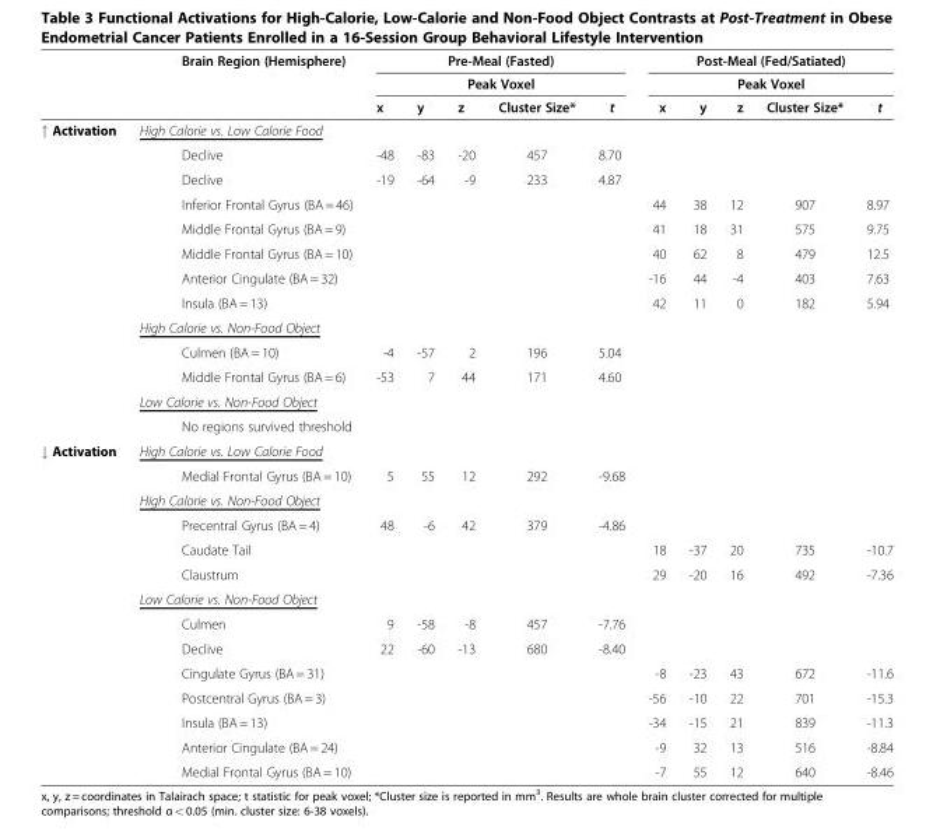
<table><thead><tr><td rowspan="3"></td><td rowspan="3">Brain Region (Hemisphere)</td><td rowspan="2" colspan="5">Pre-Meal (Fasted) Peak Voxel</td><td rowspan="2" colspan="5">Post-Meal (Fed/Satiated) Peak Voxel</td></tr><tr></tr><tr><td>x</td><td>y</td><td>z</td><td>Cluster Size*</td><td>t</td><td>x</td><td>y</td><td>z</td><td>Cluster Size*</td><td>t</td></tr></thead><tbody><tr><td rowspan="13">Activation</td><td colspan="11">High Calorie vs. Low Calorie Food</td></tr><tr><td>Declive</td><td>-48</td><td>-83</td><td>-20</td><td>457</td><td>8.70</td><td></td><td></td><td></td><td></td><td></td></tr><tr><td>Declive</td><td>-19</td><td>-64</td><td>-9</td><td>233</td><td>4.87</td><td></td><td></td><td></td><td></td><td></td></tr><tr><td>Inferior Frontal Gyrus (BA = 46)</td><td></td><td></td><td></td><td></td><td></td><td>44</td><td>38</td><td>12</td><td>907</td><td>8.97</td></tr><tr><td>Middle Frontal Gyrus (BA = 9)</td><td></td><td></td><td></td><td></td><td></td><td>41</td><td>18</td><td>31</td><td>575</td><td>9.75</td></tr><tr><td>Middle Frontal Gyrus (BA = 10)</td><td></td><td></td><td></td><td></td><td></td><td>40</td><td>62</td><td>8</td><td>479</td><td>12.5</td></tr><tr><td>Anterior Cingulate (BA = 32)</td><td></td><td></td><td></td><td></td><td></td><td>-16</td><td>44</td><td>-4</td><td>403</td><td>7.63</td></tr><tr><td>Insula (BA = 13)</td><td></td><td></td><td></td><td></td><td></td><td>42</td><td>11</td><td>0</td><td>182</td><td>5.94</td></tr><tr><td colspan="11">High Calorie vs. Non-Food Object</td></tr><tr><td>Culmen (BA = 10)</td><td>-4</td><td>-57</td><td>2</td><td>196</td><td>5.04</td><td></td><td></td><td></td><td></td><td></td></tr><tr><td>Middle Frontal Gyrus (BA = 6)</td><td>-53</td><td>7</td><td>44</td><td>171</td><td>4.60</td><td></td><td></td><td></td><td></td><td></td></tr><tr><td colspan="11">Low Calorie vs. Non-Food Object</td></tr><tr><td>No regions survived threshold</td><td></td><td></td><td></td><td></td><td></td><td></td><td></td><td></td><td></td><td></td></tr><tr><td rowspan="14">Activation</td><td colspan="11">High Calorie vs. Low Calorie Food</td></tr><tr><td>Medial Frontal Gyrus (BA = 10)</td><td>5</td><td>55</td><td>12</td><td>292</td><td>-9.68</td><td></td><td></td><td></td><td></td><td></td></tr><tr><td colspan="11">High Calorie vs. Non-Food Object</td></tr><tr><td>Precentral Gyrus (BA = 4)</td><td>48</td><td>-6</td><td>42</td><td>379</td><td>-4.86</td><td></td><td></td><td></td><td></td><td></td></tr><tr><td>Caudate Tail</td><td></td><td></td><td></td><td></td><td></td><td>18</td><td>-37</td><td>20</td><td>735</td><td>-10.7</td></tr><tr><td>Claustrum</td><td></td><td></td><td></td><td></td><td></td><td>29</td><td>-20</td><td>16</td><td>492</td><td>-7.36</td></tr><tr><td colspan="11">Low Calorie vs. Non-Food Object</td></tr><tr><td>Culmen</td><td>9</td><td>-58</td><td>-8</td><td>457</td><td>-7.76</td><td></td><td></td><td></td><td></td><td></td></tr><tr><td>Declive</td><td>22</td><td>-60</td><td>-13</td><td>680</td><td>-8.40</td><td></td><td></td><td></td><td></td><td></td></tr><tr><td>Cingulate Gyrus (BA = 31)</td><td></td><td></td><td></td><td></td><td></td><td>-8</td><td>-23</td><td>43</td><td>672</td><td>-11.6</td></tr><tr><td>Postcentral Gyrus (BA = 3)</td><td></td><td></td><td></td><td></td><td></td><td>-56</td><td>-10</td><td>22</td><td>701</td><td>-15.3</td></tr><tr><td>Insula (BA = 13)</td><td></td><td></td><td></td><td></td><td></td><td>-34</td><td>-15</td><td>21</td><td>839</td><td>-11.3</td></tr><tr><td>Anterior Cingulate (BA = 24)</td><td></td><td></td><td></td><td></td><td></td><td>-9</td><td>32</td><td>13</td><td>516</td><td>-8.84</td></tr><tr><td>Medial Frontal Gyrus (BA = 10)</td><td></td><td></td><td></td><td></td><td></td><td>-7</td><td>55</td><td>12</td><td>640</td><td>-8.46</td></tr></tbody></table>